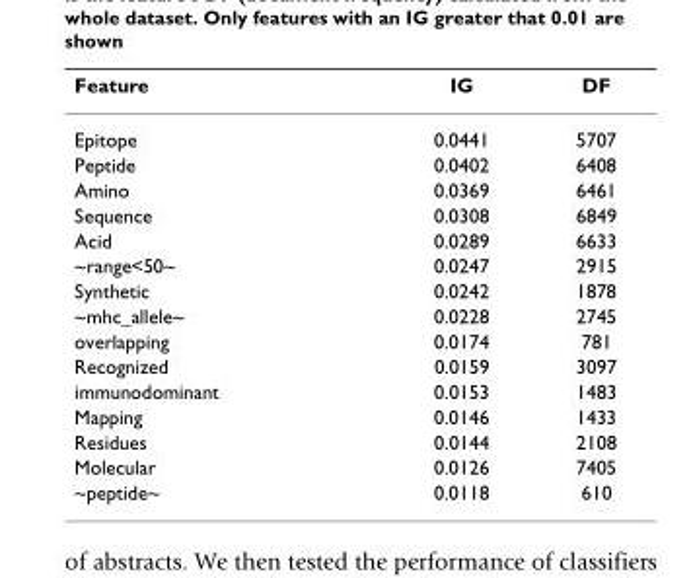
<table><thead><tr><td>Feature</td><td>IG</td><td>DF</td></tr></thead><tbody><tr><td>Epitope</td><td>0.0441</td><td>5707</td></tr><tr><td>Peptide</td><td>0.0402</td><td>6408</td></tr><tr><td>Amino</td><td>0.0369</td><td>6461</td></tr><tr><td>Sequence</td><td>0.0308</td><td>6849</td></tr><tr><td>Acid</td><td>0.0289</td><td>6633</td></tr><tr><td>~range&lt;50~</td><td>0.0247</td><td>2915</td></tr><tr><td>Synthetic</td><td>0.0242</td><td>1878</td></tr><tr><td>~mhc_allele~</td><td>0.0228</td><td>2745</td></tr><tr><td>overlapping</td><td>0.0174</td><td>781</td></tr><tr><td>Recognized</td><td>0.0159</td><td>3097</td></tr><tr><td>immunodominant</td><td>0.0153</td><td>1483</td></tr><tr><td>Mapping</td><td>0.0146</td><td>1433</td></tr><tr><td>Residues</td><td>0.0144</td><td>2108</td></tr><tr><td>Molecular</td><td>0.0126</td><td>7405</td></tr><tr><td>~peptide~</td><td>0.0118</td><td>610</td></tr></tbody></table>